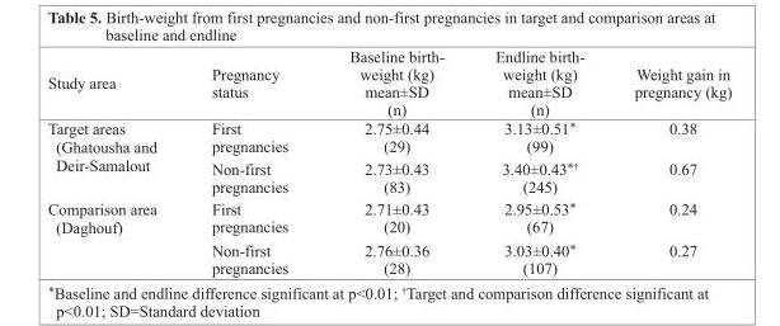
<table><thead><tr><td>Study area</td><td>Pregnancy status</td><td>Baseline birth- weight (kg) mean±SD (n)</td><td>Endline birth- weight (kg) mean±SD (n)</td><td>Weight gain in pregnancy (kg)</td></tr></thead><tbody><tr><td rowspan="2">Target areas (Ghatousha and Deir-Samalout</td><td>First pregnancies</td><td>2.75±0.44 (29)</td><td>3.13±0.51* (99)</td><td>0.38</td></tr><tr><td>Non-first pregnancies</td><td>2.73±0.43 (83)</td><td>3.40±0.43*† (245)</td><td>0.67</td></tr><tr><td rowspan="2">Comparison area (Daghouf)</td><td>First pregnancies</td><td>2.71±0.43 (20)</td><td>2.95±0.53* (67)</td><td>0.24</td></tr><tr><td>Non-first pregnancies</td><td>2.76±0.36 (28)</td><td>3.03±0.40* (107)</td><td>0.27</td></tr></tbody></table>